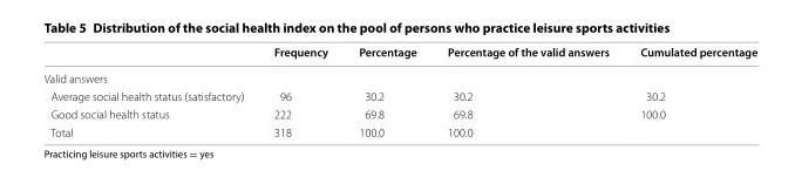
<table><thead><tr><td></td><td>Frequency</td><td>Percentage</td><td>Percentage of the valid answers</td><td>Cumulated percentage</td></tr></thead><tbody><tr><td colspan="5">Valid answers</td></tr><tr><td>Average social health status (satisfactory)</td><td>96</td><td>30.2</td><td>30.2</td><td>30.2</td></tr><tr><td>Good social health status</td><td>222</td><td>69.8</td><td>69.8</td><td>100.0</td></tr><tr><td>Total</td><td>318</td><td>100.0</td><td>100.0</td><td></td></tr></tbody></table>